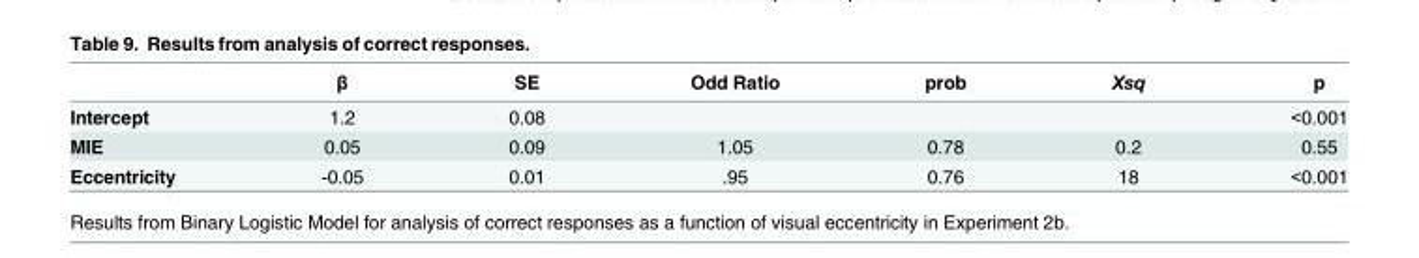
<table><thead><tr><td></td><td>β</td><td>SE</td><td>Odd Ratio</td><td>prob</td><td>Χsq</td><td>p</td></tr></thead><tbody><tr><td>Intercept</td><td>1.2</td><td>0.08</td><td></td><td></td><td></td><td>&lt;0.001</td></tr><tr><td>MIE</td><td>0.05</td><td>0.09</td><td>1.05</td><td>0.78</td><td>0.2</td><td>0.55</td></tr><tr><td>Eccentricity</td><td>-0.05</td><td>0.01</td><td>.95</td><td>0.76</td><td>18</td><td>&lt;0.001</td></tr></tbody></table>